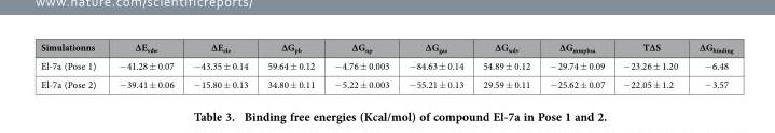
<table><thead><tr><td>Simulationns</td><td>∆E<sub>vdw</sub></td><td>∆E<sub>ele</sub></td><td>∆G<sub>pb</sub></td><td>∆G<sub>np</sub></td><td>∆G<sub>gas</sub></td><td>∆G<sub>solv</sub></td><td>∆G<sub>mmpbsa</sub></td><td>T∆S</td><td>∆G<sub>binding</sub></td></tr></thead><tbody><tr><td>El-7a (Pose 1)</td><td>− 41.28 ± 0.07</td><td>− 43.35 ± 0.14</td><td>59.64 ± 0.12</td><td>− 4.76 ± 0.003</td><td>− 84.63 ± 0.14</td><td>54.89 ± 0.12</td><td>− 29.74 ± 0.09</td><td>− 23.26 ± 1.20</td><td>− 6.48</td></tr><tr><td>El-7a (Pose 2)</td><td>− 39.41 ± 0.06</td><td>− 15.80 ± 0.13</td><td>34.80 ± 0.11</td><td>− 5.22 ± 0.003</td><td>− 55.21 ± 0.13</td><td>29.59 ± 0.11</td><td>− 25.62 ± 0.07</td><td>− 22.05 ± 1.2</td><td>− 3.57</td></tr></tbody></table>